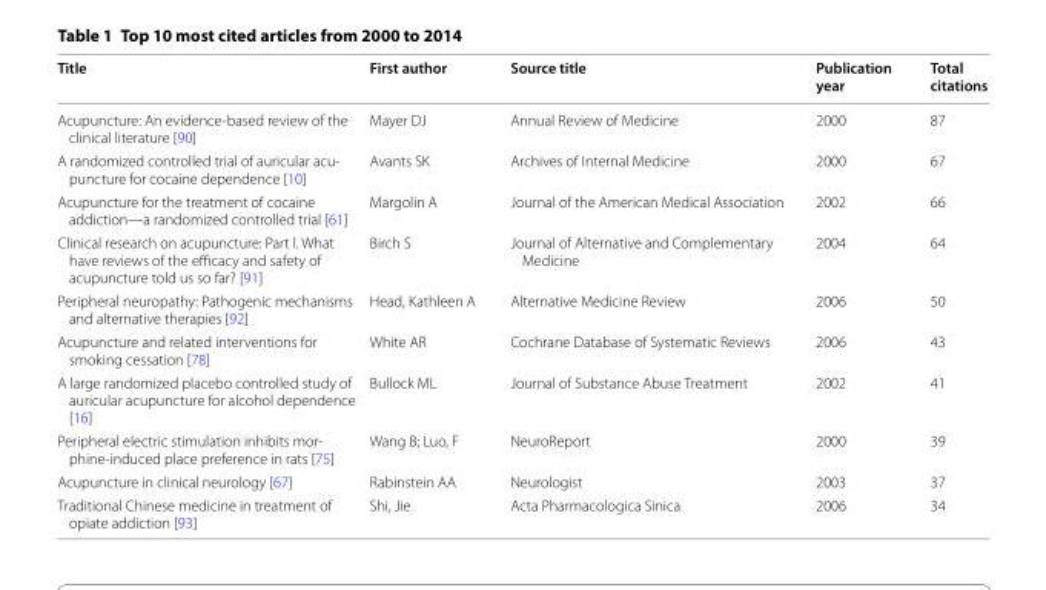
<table><thead><tr><td>Title</td><td>First author</td><td>Source title</td><td>Publication year</td><td>Total citations</td></tr></thead><tbody><tr><td>Acupuncture: An evidence-based review of the clinical literature [90]</td><td>Mayer DJ</td><td>Annual Review of Medicine</td><td>2000</td><td>87</td></tr><tr><td>A randomized controlled trial of auricular acu- puncture for cocaine dependence [10]</td><td>Avants SK</td><td>Archives of Internal Medicine</td><td>2000</td><td>67</td></tr><tr><td>Acupuncture for the treatment of cocaine addiction—a randomized controlled trial [61]</td><td>Margolin A</td><td>Journal of the American Medical Association</td><td>2002</td><td>66</td></tr><tr><td>Clinical research on acupuncture: Part l. What have reviews of the efficacy and safety of acupuncture told us so far? [91]</td><td>Birch S</td><td>Journal of Alternative and Complementary Medicine</td><td>2004</td><td>64</td></tr><tr><td>Peripheral neuropathy: Pathogenic mechanisms and alternative therapies [92]</td><td>Head, Kathleen A</td><td>Alternative Medicine Review</td><td>2006</td><td>50</td></tr><tr><td>Acupuncture and related interventions for smoking cessation [78]</td><td>White AR</td><td>Cochrane Database of Systematic Reviews</td><td>2006</td><td>43</td></tr><tr><td>A large randomized placebo controlled study of auricular acupuncture for alcohol dependence [16]</td><td>Bullock ML</td><td>Journal of Substance Abuse Treatment</td><td>2002</td><td>41</td></tr><tr><td>Peripheral electric stimulation inhibits mor- phine-induced place preference in rats [75]</td><td>Wang B; Luo, F</td><td>NeuroReport</td><td>2000</td><td>39</td></tr><tr><td>Acupuncture in clinical neurology [67]</td><td>Rabinstein AA</td><td>Neurologist</td><td>2003</td><td>37</td></tr><tr><td>Traditional Chinese medicine in treatment of opiate addiction [93]</td><td>Shi, Jie</td><td>Acta Pharmacologica Sinica</td><td>2006</td><td>34</td></tr></tbody></table>